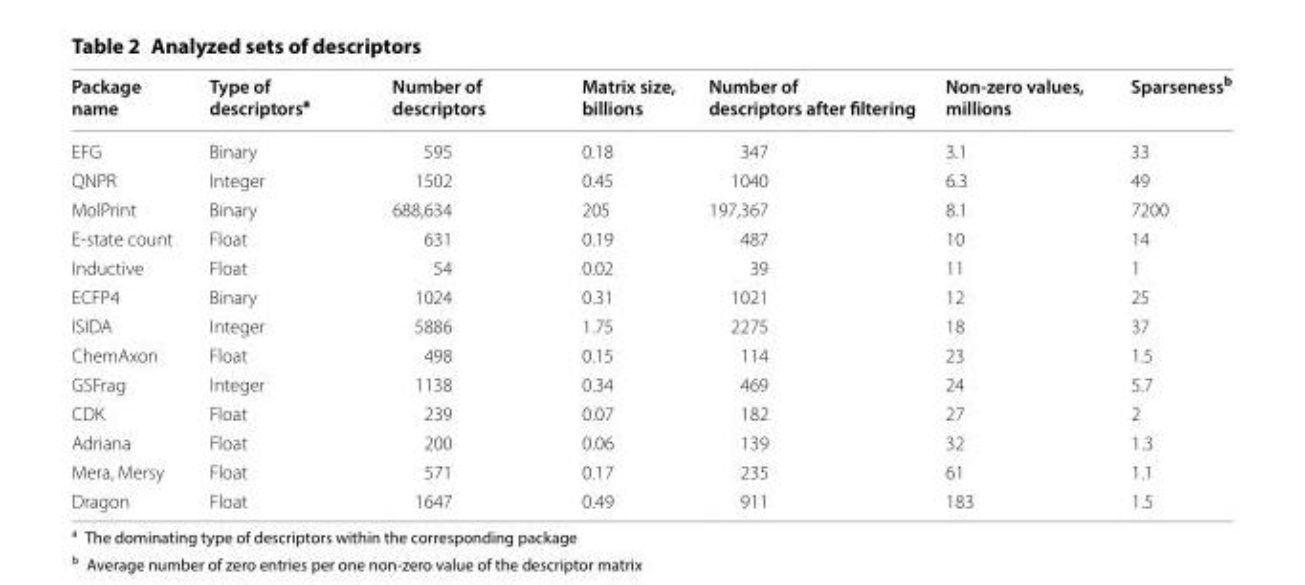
<table><thead><tr><td>Package name</td><td>Type of descriptors<sup>a</sup></td><td>Number of descriptors</td><td>Matrix size, billions</td><td>Number of descriptors after filtering</td><td>Non-zero values, millions</td><td>Sparseness<sup>b</sup></td></tr></thead><tbody><tr><td>EFG</td><td>Binary</td><td>595</td><td>0.18</td><td>347</td><td>3.1</td><td>33</td></tr><tr><td>QNPR</td><td>Integer</td><td>1502</td><td>0.45</td><td>1040</td><td>6.3</td><td>49</td></tr><tr><td>MolPrint</td><td>Binary</td><td>688,634</td><td>205</td><td>197,367</td><td>8.1</td><td>7200</td></tr><tr><td>E-state count</td><td>Float</td><td>631</td><td>0.19</td><td>487</td><td>10</td><td>14</td></tr><tr><td>Inductive</td><td>Float</td><td>54</td><td>0.02</td><td>39</td><td>11</td><td>1</td></tr><tr><td>ECFP4</td><td>Binary</td><td>1024</td><td>0.31</td><td>1021</td><td>12</td><td>25</td></tr><tr><td>ISIDA</td><td>Integer</td><td>5886</td><td>1.75</td><td>2275</td><td>18</td><td>37</td></tr><tr><td>ChemAxon</td><td>Float</td><td>498</td><td>0.15</td><td>114</td><td>23</td><td>1.5</td></tr><tr><td>GSFrag</td><td>Integer</td><td>1138</td><td>0.34</td><td>469</td><td>24</td><td>5.7</td></tr><tr><td>CDK</td><td>Float</td><td>239</td><td>0.07</td><td>182</td><td>27</td><td>2</td></tr><tr><td>Adriana</td><td>Float</td><td>200</td><td>0.06</td><td>139</td><td>32</td><td>1.3</td></tr><tr><td>Mera, Mersy</td><td>Float</td><td>571</td><td>0.17</td><td>235</td><td>61</td><td>1.1</td></tr><tr><td>Dragon</td><td>Float</td><td>1647</td><td>0.49</td><td>911</td><td>183</td><td>1.5</td></tr></tbody></table>